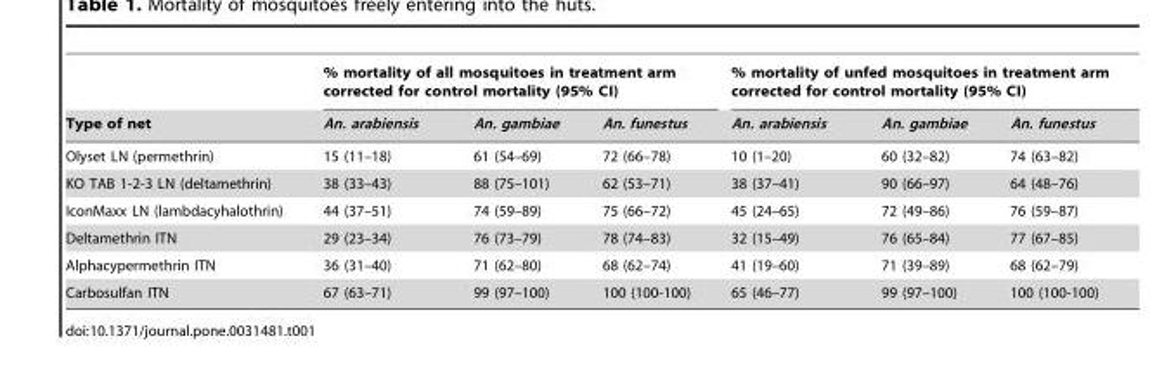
<table><thead><tr><td rowspan="2">Type of net</td><td colspan="3">% mortality of all mosquitoes in treatment arm corrected for control mortality (95% CI)</td><td colspan="3">% mortality of unfed mosquitoes in treatment arm corrected for control mortality (95% CI)</td></tr><tr><td>An. arabiensis</td><td>An. gambiae</td><td>An. funestus</td><td>An. arabiensis</td><td>An. gambiae</td><td>An. funestus</td></tr></thead><tbody><tr><td>Olyset LN (permethrin)</td><td>15 (11–18)</td><td>61 (54–69)</td><td>72 (66–78)</td><td>10 (1–20)</td><td>60 (32–82)</td><td>74 (63–82)</td></tr><tr><td>KO TAB 1-2-3 LN (deltamethrin)</td><td>38 (33–43)</td><td>88 (75–101)</td><td>62 (53–71)</td><td>38 (37–41)</td><td>90 (66–97)</td><td>64 (48–76)</td></tr><tr><td>IconMaxx LN (lambdacyhalothrin)</td><td>44 (37–51)</td><td>74 (59–89)</td><td>75 (66–72)</td><td>45 (24–65)</td><td>72 (49–86)</td><td>76 (59–87)</td></tr><tr><td>Deltamethrin ITN</td><td>29 (23–34)</td><td>76 (73–79)</td><td>78 (74–83)</td><td>32 (15–49)</td><td>76 (65–84)</td><td>77 (67–85)</td></tr><tr><td>Alphacypermethrin ITN</td><td>36 (31–40)</td><td>71 (62–80)</td><td>68 (62–74)</td><td>41 (19–60)</td><td>71 (39–89)</td><td>68 (62–79)</td></tr><tr><td>Carbosulfan ITN</td><td>67 (63–71)</td><td>99 (97–100)</td><td>100 (100-100)</td><td>65 (46–77)</td><td>99 (97–100)</td><td>100 (100-100)</td></tr></tbody></table>